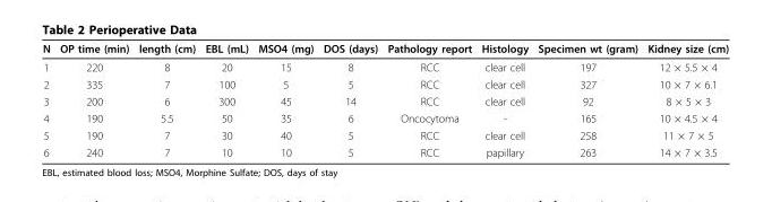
<table><thead><tr><td>N</td><td>OP time (min)</td><td>length (cm)</td><td>EBL (mL)</td><td>MSO4 (mg)</td><td>DOS (days)</td><td>Pathology report</td><td>Histology</td><td>Specimen wt (gram)</td><td>Kidney size (cm)</td></tr></thead><tbody><tr><td>1</td><td>220</td><td>8</td><td>20</td><td>15</td><td>8</td><td>RCC</td><td>clear cell</td><td>197</td><td>12 × 5.5 × 4</td></tr><tr><td>2</td><td>335</td><td>7</td><td>100</td><td>5</td><td>5</td><td>RCC</td><td>clear cell</td><td>327</td><td>10 × 7 × 6.1</td></tr><tr><td>3</td><td>200</td><td>6</td><td>300</td><td>45</td><td>14</td><td>RCC</td><td>clear cell</td><td>92</td><td>8 × 5 × 3</td></tr><tr><td>4</td><td>190</td><td>5.5</td><td>50</td><td>35</td><td>6</td><td>Oncocytoma</td><td>-</td><td>165</td><td>10 × 4.5 × 4</td></tr><tr><td>5</td><td>190</td><td>7</td><td>30</td><td>40</td><td>5</td><td>RCC</td><td>clear cell</td><td>258</td><td>11 × 7 × 5</td></tr><tr><td>6</td><td>240</td><td>7</td><td>10</td><td>10</td><td>5</td><td>RCC</td><td>papillary</td><td>263</td><td>14 × 7 × 3.5</td></tr></tbody></table>